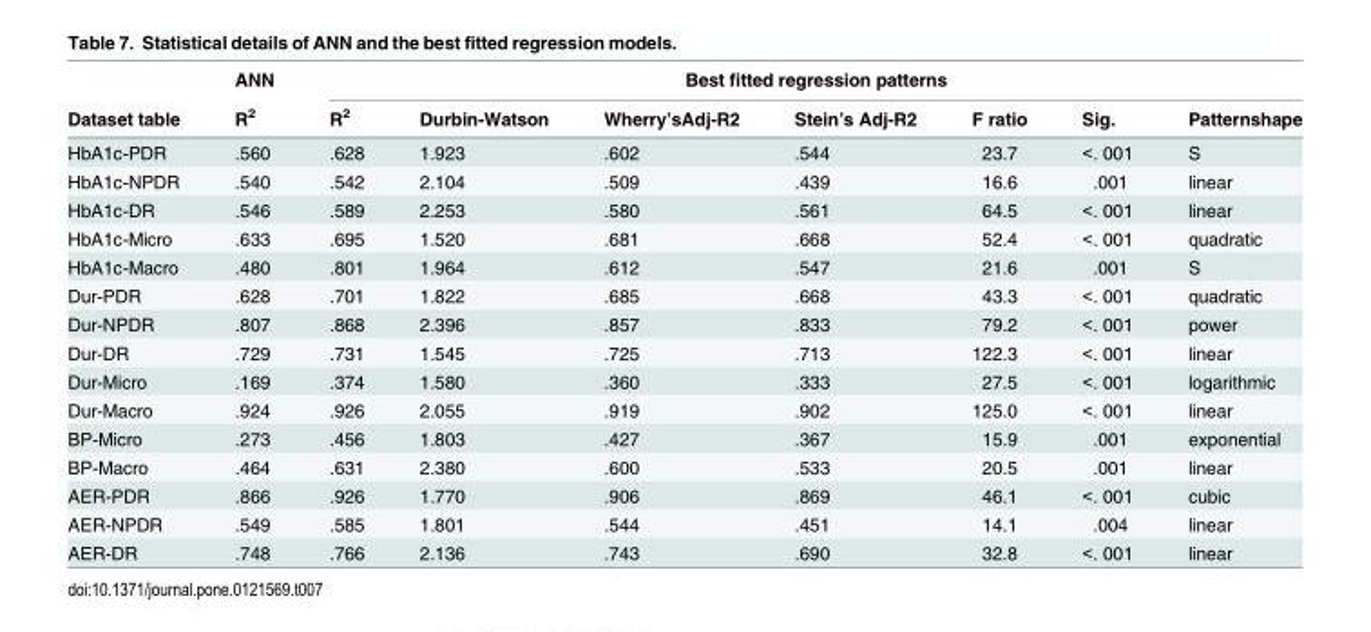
<table><thead><tr><td rowspan="2">Dataset table</td><td rowspan="2">ANN R<sup>2</sup></td><td colspan="7">Best fitted regression patterns</td></tr><tr><td>R<sup>2</sup></td><td>Durbin-Watson</td><td>Wherry’sAdj-R2</td><td>Stein’s Adj-R2</td><td>F ratio</td><td>Sig.</td><td>Patternshape</td></tr></thead><tbody><tr><td>HbA1c-PDR</td><td>.560</td><td>.628</td><td>1.923</td><td>.602</td><td>.544</td><td>23.7</td><td>&lt;. 001</td><td>S</td></tr><tr><td>HbA1c-NPDR</td><td>.540</td><td>.542</td><td>2.104</td><td>.509</td><td>.439</td><td>16.6</td><td>.001</td><td>linear</td></tr><tr><td>HbA1c-DR</td><td>.546</td><td>.589</td><td>2.253</td><td>.580</td><td>.561</td><td>64.5</td><td>&lt;. 001</td><td>linear</td></tr><tr><td>HbA1c-Micro</td><td>.633</td><td>.695</td><td>1.520</td><td>.681</td><td>.668</td><td>52.4</td><td>&lt;. 001</td><td>quadratic</td></tr><tr><td>HbA1c-Macro</td><td>.480</td><td>.801</td><td>1.964</td><td>.612</td><td>.547</td><td>21.6</td><td>.001</td><td>S</td></tr><tr><td>Dur-PDR</td><td>.628</td><td>.701</td><td>1.822</td><td>.685</td><td>.668</td><td>43.3</td><td>&lt;. 001</td><td>quadratic</td></tr><tr><td>Dur-NPDR</td><td>.807</td><td>.868</td><td>2.396</td><td>.857</td><td>.833</td><td>79.2</td><td>&lt;. 001</td><td>power</td></tr><tr><td>Dur-DR</td><td>.729</td><td>.731</td><td>1.545</td><td>.725</td><td>.713</td><td>122.3</td><td>&lt;. 001</td><td>linear</td></tr><tr><td>Dur-Micro</td><td>.169</td><td>.374</td><td>1.580</td><td>.360</td><td>.333</td><td>27.5</td><td>&lt;. 001</td><td>logarithmic</td></tr><tr><td>Dur-Macro</td><td>.924</td><td>.926</td><td>2.055</td><td>.919</td><td>.902</td><td>125.0</td><td>&lt;. 001</td><td>linear</td></tr><tr><td>BP-Micro</td><td>.273</td><td>.456</td><td>1.803</td><td>.427</td><td>.367</td><td>15.9</td><td>.001</td><td>exponential</td></tr><tr><td>BP-Macro</td><td>.464</td><td>.631</td><td>2.380</td><td>.600</td><td>.533</td><td>20.5</td><td>.001</td><td>linear</td></tr><tr><td>AER-PDR</td><td>.866</td><td>.926</td><td>1.770</td><td>.906</td><td>.869</td><td>46.1</td><td>&lt;. 001</td><td>cubic</td></tr><tr><td>AER-NPDR</td><td>.549</td><td>.585</td><td>1.801</td><td>.544</td><td>.451</td><td>14.1</td><td>.004</td><td>linear</td></tr><tr><td>AER-DR</td><td>.748</td><td>.766</td><td>2.136</td><td>.743</td><td>.690</td><td>32.8</td><td>&lt;. 001</td><td>linear</td></tr></tbody></table>